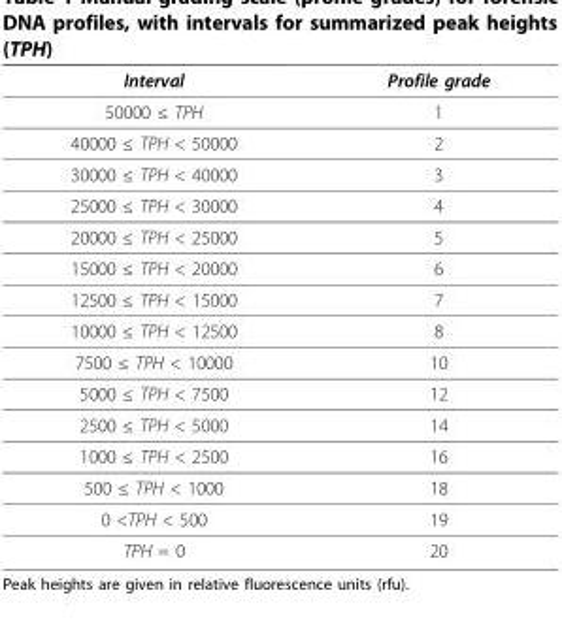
<table><thead><tr><td>Interval</td><td>Profile grade</td></tr></thead><tbody><tr><td>50000 ≤ TPH</td><td>1</td></tr><tr><td>40000 ≤ TPH &lt; 50000</td><td>2</td></tr><tr><td>30000 ≤ TPH &lt; 40000</td><td>3</td></tr><tr><td>25000 ≤ TPH &lt; 30000</td><td>4</td></tr><tr><td>20000 ≤ TPH &lt; 25000</td><td>5</td></tr><tr><td>15000 ≤ TPH &lt; 20000</td><td>6</td></tr><tr><td>12500 ≤ TPH &lt; 15000</td><td>7</td></tr><tr><td>10000 ≤ TPH &lt; 12500</td><td>8</td></tr><tr><td>7500 ≤ TPH &lt; 10000</td><td>10</td></tr><tr><td>5000 ≤ TPH &lt; 7500</td><td>12</td></tr><tr><td>2500 ≤ TPH &lt; 5000</td><td>14</td></tr><tr><td>1000 ≤ TPH &lt; 2500</td><td>16</td></tr><tr><td>500 ≤ TPH &lt; 1000</td><td>18</td></tr><tr><td>0 &lt;TPH &lt; 500</td><td>19</td></tr><tr><td>TPH = 0</td><td>20</td></tr></tbody></table>